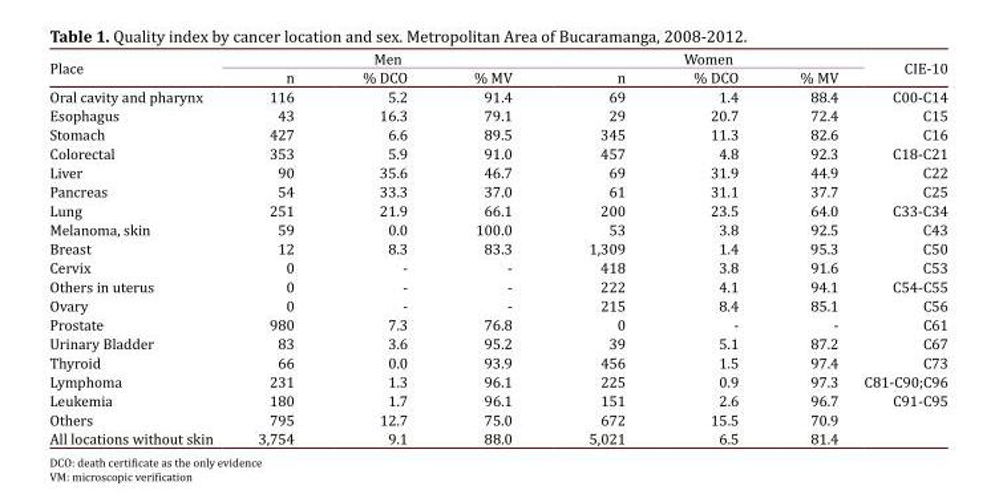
<table><thead><tr><td rowspan="2">Place</td><td colspan="3">Men</td><td colspan="3">Women</td><td rowspan="2">CIE-10</td></tr><tr><td>n</td><td>% DCO</td><td>% MV</td><td>n</td><td>% DCO</td><td>% MV</td></tr></thead><tbody><tr><td>Oral cavity and pharynx</td><td>116</td><td>5.2</td><td>91.4</td><td>69</td><td>1.4</td><td>88.4</td><td>C00-C14</td></tr><tr><td>Esophagus</td><td>43</td><td>16.3</td><td>79.1</td><td>29</td><td>20.7</td><td>72.4</td><td>C15</td></tr><tr><td>Stomach</td><td>427</td><td>6.6</td><td>89.5</td><td>345</td><td>11.3</td><td>82.6</td><td>C16</td></tr><tr><td>Colorectal</td><td>353</td><td>5.9</td><td>91.0</td><td>457</td><td>4.8</td><td>92.3</td><td>C18-C21</td></tr><tr><td>Liver</td><td>90</td><td>35.6</td><td>46.7</td><td>69</td><td>31.9</td><td>44.9</td><td>C22</td></tr><tr><td>Pancreas</td><td>54</td><td>33.3</td><td>37.0</td><td>61</td><td>31.1</td><td>37.7</td><td>C25</td></tr><tr><td>Lung</td><td>251</td><td>21.9</td><td>66.1</td><td>200</td><td>23.5</td><td>64.0</td><td>C33-C34</td></tr><tr><td>Melanoma, skin</td><td>59</td><td>0.0</td><td>100.0</td><td>53</td><td>3.8</td><td>92.5</td><td>C43</td></tr><tr><td>Breast</td><td>12</td><td>8.3</td><td>83.3</td><td>1,309</td><td>1.4</td><td>95.3</td><td>C50</td></tr><tr><td>Cervix</td><td>0</td><td>-</td><td>-</td><td>418</td><td>3.8</td><td>91.6</td><td>C53</td></tr><tr><td>Others in uterus</td><td>0</td><td>-</td><td>-</td><td>222</td><td>4.1</td><td>94.1</td><td>C54-C55</td></tr><tr><td>Ovary</td><td>0</td><td>-</td><td>-</td><td>215</td><td>8.4</td><td>85.1</td><td>C56</td></tr><tr><td>Prostate</td><td>980</td><td>7.3</td><td>76.8</td><td>0</td><td>-</td><td>-</td><td>C61</td></tr><tr><td>Urinary Bladder</td><td>83</td><td>3.6</td><td>95.2</td><td>39</td><td>5.1</td><td>87.2</td><td>C67</td></tr><tr><td>Thyroid</td><td>66</td><td>0.0</td><td>93.9</td><td>456</td><td>1.5</td><td>97.4</td><td>C73</td></tr><tr><td>Lymphoma</td><td>231</td><td>1.3</td><td>96.1</td><td>225</td><td>0.9</td><td>97.3</td><td>C81-C90;C96</td></tr><tr><td>Leukemia</td><td>180</td><td>1.7</td><td>96.1</td><td>151</td><td>2.6</td><td>96.7</td><td>C91-C95</td></tr><tr><td>Others</td><td>795</td><td>12.7</td><td>75.0</td><td>672</td><td>15.5</td><td>70.9</td><td></td></tr><tr><td>All locations without skin</td><td>3,754</td><td>9.1</td><td>88.0</td><td>5,021</td><td>6.5</td><td>81.4</td><td></td></tr></tbody></table>